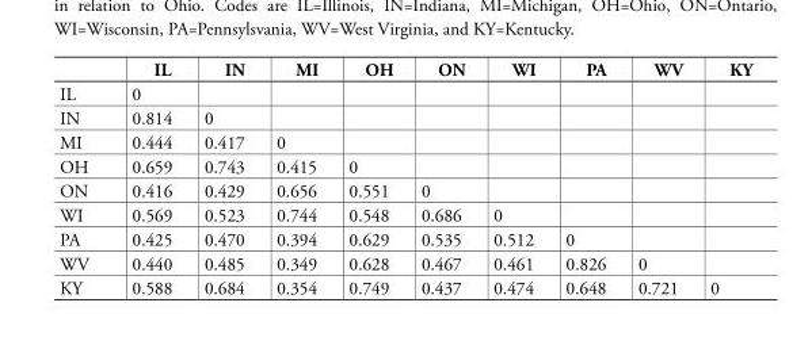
<table><thead><tr><td></td><td>IL</td><td>IN</td><td>MI</td><td>OH</td><td>ON</td><td>WI</td><td>PA</td><td>WV</td><td>KY</td></tr></thead><tbody><tr><td>IL</td><td>0</td><td></td><td></td><td></td><td></td><td></td><td></td><td></td><td></td></tr><tr><td>IN</td><td>0.814</td><td>0</td><td></td><td></td><td></td><td></td><td></td><td></td><td></td></tr><tr><td>MI</td><td>0.444</td><td>0.417</td><td>0</td><td></td><td></td><td></td><td></td><td></td><td></td></tr><tr><td>OH</td><td>0.659</td><td>0.743</td><td>0.415</td><td>0</td><td></td><td></td><td></td><td></td><td></td></tr><tr><td>ON</td><td>0.416</td><td>0.429</td><td>0.656</td><td>0.551</td><td>0</td><td></td><td></td><td></td><td></td></tr><tr><td>WI</td><td>0.569</td><td>0.523</td><td>0.744</td><td>0.548</td><td>0.686</td><td>0</td><td></td><td></td><td></td></tr><tr><td>PA</td><td>0.425</td><td>0.470</td><td>0.394</td><td>0.629</td><td>0.535</td><td>0.512</td><td>0</td><td></td><td></td></tr><tr><td>WV</td><td>0.440</td><td>0.485</td><td>0.349</td><td>0.628</td><td>0.467</td><td>0.461</td><td>0.826</td><td>0</td><td></td></tr><tr><td>KY</td><td>0.588</td><td>0.684</td><td>0.354</td><td>0.749</td><td>0.437</td><td>0.474</td><td>0.648</td><td>0.721</td><td>0</td></tr></tbody></table>